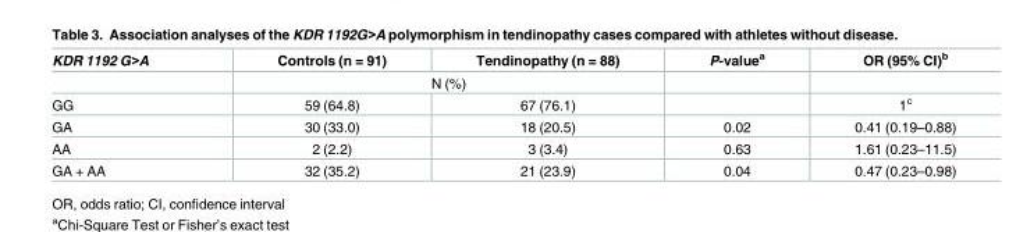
<table><thead><tr><td>KDR 1192 G&gt;A</td><td>Controls (n = 91)</td><td>Tendinopathy (n = 88)</td><td>P-value<sup>a</sup></td><td>OR (95% CI)<sup>b</sup></td></tr></thead><tbody><tr><td></td><td colspan="2">N (%)</td><td></td><td></td></tr><tr><td>GG</td><td>59 (64.8)</td><td>67 (76.1)</td><td></td><td>1<sup>c</sup></td></tr><tr><td>GA</td><td>30 (33.0)</td><td>18 (20.5)</td><td>0.02</td><td>0.41 (0.19–0.88)</td></tr><tr><td>AA</td><td>2 (2.2)</td><td>3 (3.4)</td><td>0.63</td><td>1.61 (0.23–11.5)</td></tr><tr><td>GA + AA</td><td>32 (35.2)</td><td>21 (23.9)</td><td>0.04</td><td>0.47 (0.23–0.98)</td></tr></tbody></table>